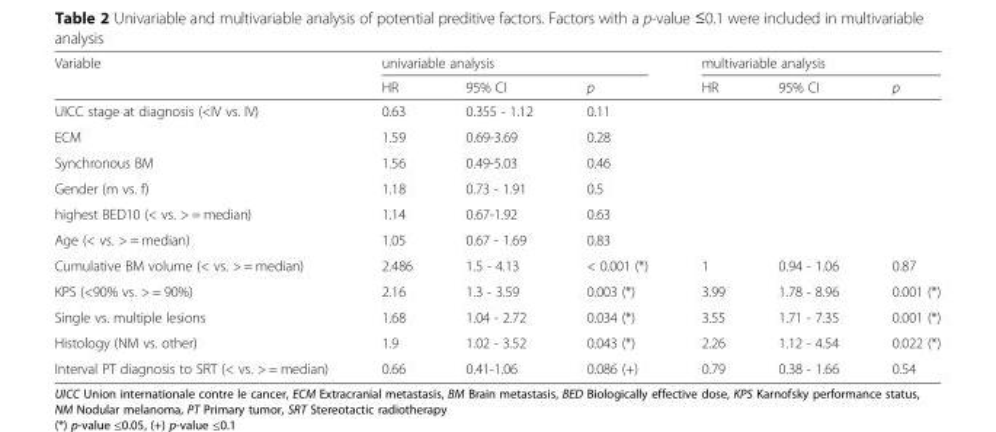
<table><thead><tr><td rowspan="2">Variable</td><td colspan="3">univariable analysis</td><td colspan="3">multivariable analysis</td></tr><tr><td>HR</td><td>95% CI</td><td>p</td><td>HR</td><td>95% CI</td><td>p</td></tr></thead><tbody><tr><td>UICC stage at diagnosis (&lt;IV vs. IV)</td><td>0.63</td><td>0.355 - 1.12</td><td>0.11</td><td></td><td></td><td></td></tr><tr><td>ECM</td><td>1.59</td><td>0.69-3.69</td><td>0.28</td><td></td><td></td><td></td></tr><tr><td>Synchronous BM</td><td>1.56</td><td>0.49-5.03</td><td>0.46</td><td></td><td></td><td></td></tr><tr><td>Gender (m vs. f)</td><td>1.18</td><td>0.73 - 1.91</td><td>0.5</td><td></td><td></td><td></td></tr><tr><td>highest BED10 (&lt; vs. &gt; = median)</td><td>1.14</td><td>0.67-1.92</td><td>0.63</td><td></td><td></td><td></td></tr><tr><td>Age (&lt; vs. &gt; = median)</td><td>1.05</td><td>0.67 - 1.69</td><td>0.83</td><td></td><td></td><td></td></tr><tr><td>Cumulative BM volume (&lt; vs. &gt; = median)</td><td>2.486</td><td>1.5 - 4.13</td><td>&lt; 0.001 (*)</td><td>1</td><td>0.94 - 1.06</td><td>0.87</td></tr><tr><td>KPS (&lt;90% vs. &gt; = 90%)</td><td>2.16</td><td>1.3 - 3.59</td><td>0.003 (*)</td><td>3.99</td><td>1.78 - 8.96</td><td>0.001 (*)</td></tr><tr><td>Single vs. multiple lesions</td><td>1.68</td><td>1.04 - 2.72</td><td>0.034 (*)</td><td>3.55</td><td>1.71 - 7.35</td><td>0.001 (*)</td></tr><tr><td>Histology (NM vs. other)</td><td>1.9</td><td>1.02 - 3.52</td><td>0.043 (*)</td><td>2.26</td><td>1.12 - 4.54</td><td>0.022 (*)</td></tr><tr><td>Interval PT diagnosis to SRT (&lt; vs. &gt; = median)</td><td>0.66</td><td>0.41-1.06</td><td>0.086 (+)</td><td>0.79</td><td>0.38 - 1.66</td><td>0.54</td></tr></tbody></table>